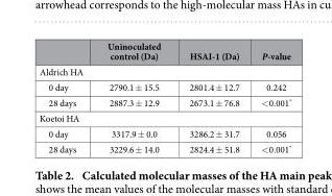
<table><thead><tr><td></td><td>Uninoculated control (Da)</td><td>HSAI-1 (Da)</td><td>P-value</td></tr></thead><tbody><tr><td colspan="4">Aldrich HA</td></tr><tr><td>0 day</td><td>2790.1 ± 15.5</td><td>2801.4 ± 12.7</td><td>0.242</td></tr><tr><td>28 days</td><td>2887.3 ± 12.9</td><td>2673.1 ± 76.8</td><td>&lt; 0.001*</td></tr><tr><td colspan="4">Koetoi HA</td></tr><tr><td>0 day</td><td>3317.9 ± 0.0</td><td>3286.2 ± 31.7</td><td>0.056</td></tr><tr><td>28 days</td><td>3229.6 ± 14.0</td><td>2824.4 ± 51.8</td><td>&lt; 0.001*</td></tr></tbody></table>